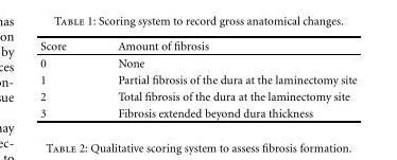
<table><thead><tr><td>Score</td><td>Amount of fibrosis</td></tr></thead><tbody><tr><td>0</td><td>None</td></tr><tr><td>1</td><td>Partial fibrosis of the dura at the laminectomy site</td></tr><tr><td>2</td><td>Total fibrosis of the dura at the laminectomy site</td></tr><tr><td>3</td><td>Fibrosis extended beyond dura thickness</td></tr></tbody></table>